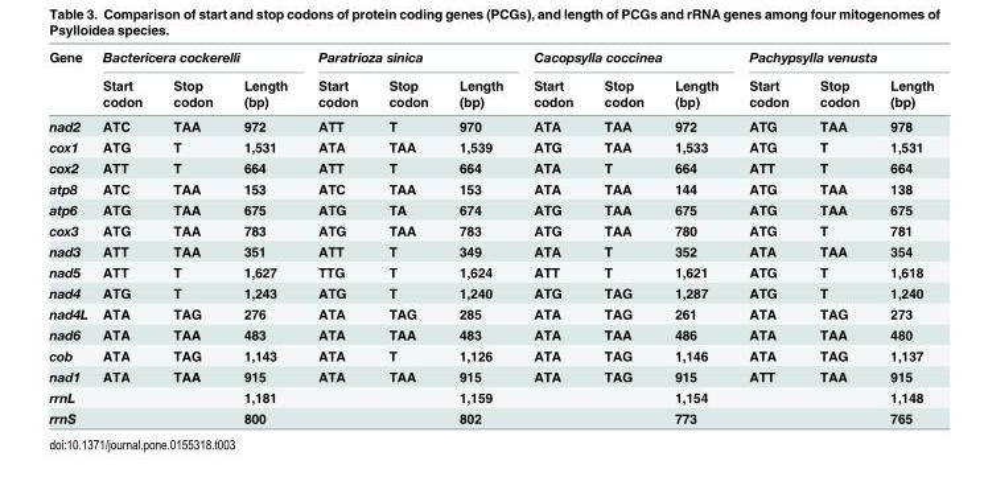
<table><thead><tr><td rowspan="2">Gene</td><td colspan="3">Bactericera cockerelli</td><td colspan="3">Paratrioza sinica</td><td colspan="3">Cacopsylla coccinea</td><td colspan="3">Pachypsylla venusta</td></tr><tr><td>Start codon</td><td>Stop codon</td><td>Length (bp)</td><td>Start codon</td><td>Stop codon</td><td>Length (bp)</td><td>Start codon</td><td>Stop codon</td><td>Length (bp)</td><td>Start codon</td><td>Stop codon</td><td>Length (bp)</td></tr></thead><tbody><tr><td>nad2</td><td>ATC</td><td>TAA</td><td>972</td><td>ATT</td><td>T</td><td>970</td><td>ATA</td><td>TAA</td><td>972</td><td>ATG</td><td>TAA</td><td>978</td></tr><tr><td>cox1</td><td>ATG</td><td>T</td><td>1,531</td><td>ATA</td><td>TAA</td><td>1,539</td><td>ATG</td><td>TAA</td><td>1,533</td><td>ATG</td><td>T</td><td>1,531</td></tr><tr><td>cox2</td><td>ATT</td><td>T</td><td>664</td><td>ATT</td><td>T</td><td>664</td><td>ATA</td><td>T</td><td>664</td><td>ATT</td><td>T</td><td>664</td></tr><tr><td>atp8</td><td>ATC</td><td>TAA</td><td>153</td><td>ATC</td><td>TAA</td><td>153</td><td>ATA</td><td>TAA</td><td>144</td><td>ATG</td><td>TAA</td><td>138</td></tr><tr><td>atp6</td><td>ATG</td><td>TAA</td><td>675</td><td>ATG</td><td>TA</td><td>674</td><td>ATG</td><td>TAA</td><td>675</td><td>ATG</td><td>TAA</td><td>675</td></tr><tr><td>cox3</td><td>ATG</td><td>TAA</td><td>783</td><td>ATG</td><td>TAA</td><td>783</td><td>ATG</td><td>TAA</td><td>780</td><td>ATG</td><td>T</td><td>781</td></tr><tr><td>nad3</td><td>ATT</td><td>TAA</td><td>351</td><td>ATT</td><td>T</td><td>349</td><td>ATA</td><td>T</td><td>352</td><td>ATA</td><td>TAA</td><td>354</td></tr><tr><td>nad5</td><td>ATT</td><td>T</td><td>1,627</td><td>TTG</td><td>T</td><td>1,624</td><td>ATT</td><td>T</td><td>1,621</td><td>ATG</td><td>T</td><td>1,618</td></tr><tr><td>nad4</td><td>ATG</td><td>T</td><td>1,243</td><td>ATG</td><td>T</td><td>1,240</td><td>ATG</td><td>TAG</td><td>1,287</td><td>ATG</td><td>T</td><td>1,240</td></tr><tr><td>nad4L</td><td>ATA</td><td>TAG</td><td>276</td><td>ATA</td><td>TAG</td><td>285</td><td>ATA</td><td>TAG</td><td>261</td><td>ATA</td><td>TAG</td><td>273</td></tr><tr><td>nad6</td><td>ATA</td><td>TAA</td><td>483</td><td>ATA</td><td>TAA</td><td>483</td><td>ATA</td><td>TAA</td><td>486</td><td>ATA</td><td>TAA</td><td>480</td></tr><tr><td>cob</td><td>ATA</td><td>TAG</td><td>1,143</td><td>ATA</td><td>T</td><td>1,126</td><td>ATA</td><td>TAG</td><td>1,146</td><td>ATA</td><td>TAG</td><td>1,137</td></tr><tr><td>nad1</td><td>ATA</td><td>TAA</td><td>915</td><td>ATA</td><td>TAA</td><td>915</td><td>ATA</td><td>TAG</td><td>915</td><td>ATT</td><td>TAA</td><td>915</td></tr><tr><td>rrnL</td><td></td><td></td><td>1,181</td><td></td><td></td><td>1,159</td><td></td><td></td><td>1,154</td><td></td><td></td><td>1,148</td></tr><tr><td>rrnS</td><td></td><td></td><td>800</td><td></td><td></td><td>802</td><td></td><td></td><td>773</td><td></td><td></td><td>765</td></tr></tbody></table>